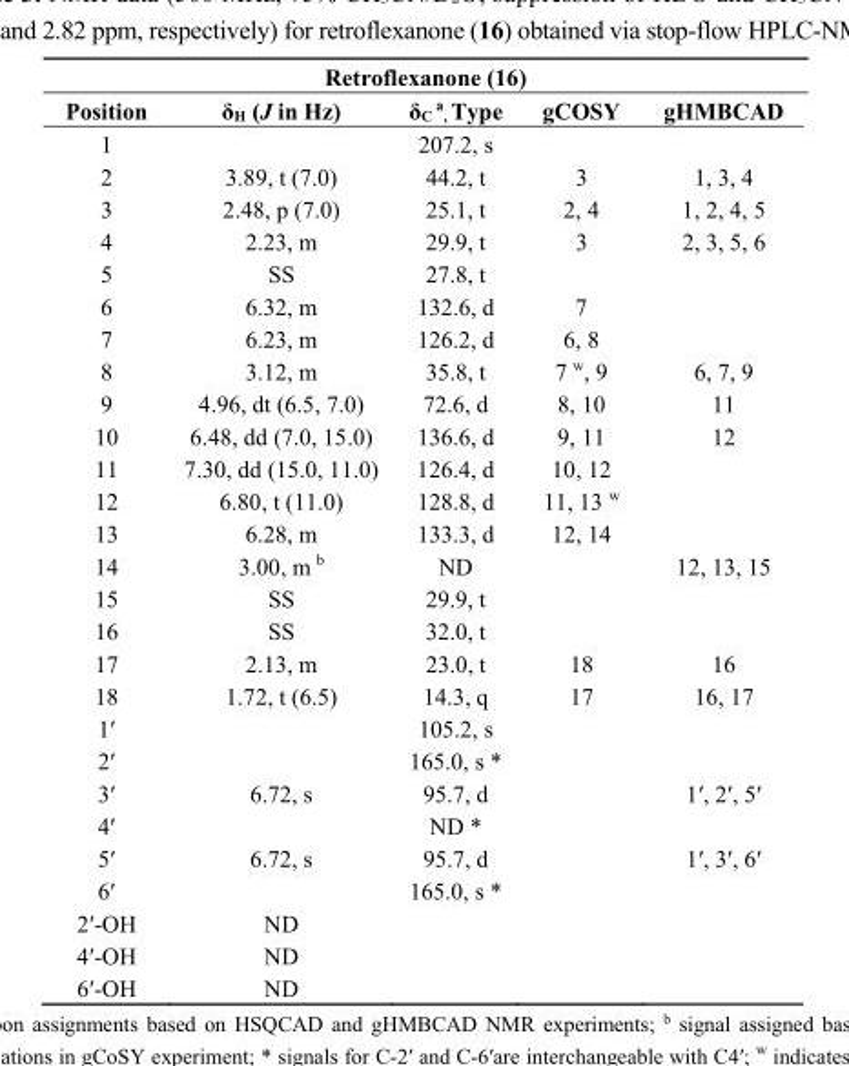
<table><thead><tr><td colspan="5">Retroflexanone (16)</td></tr><tr><td>Position</td><td>δ<sub>H</sub> (J in Hz)</td><td>δ<sub>C</sub> <sup>a</sup><sub>,</sub> Type</td><td>gCOSY</td><td>gHMBCAD</td></tr></thead><tbody><tr><td>1</td><td></td><td>207.2, s</td><td></td><td></td></tr><tr><td>2</td><td>3.89, t (7.0)</td><td>44.2, t</td><td>3</td><td>1, 3, 4</td></tr><tr><td>3</td><td>2.48, p (7.0)</td><td>25.1, t</td><td>2, 4</td><td>1, 2, 4, 5</td></tr><tr><td>4</td><td>2.23, m</td><td>29.9, t</td><td>3</td><td>2, 3, 5, 6</td></tr><tr><td>5</td><td>SS</td><td>27.8, t</td><td></td><td></td></tr><tr><td>6</td><td>6.32, m</td><td>132.6, d</td><td>7</td><td></td></tr><tr><td>7</td><td>6.23, m</td><td>126.2, d</td><td>6, 8</td><td></td></tr><tr><td>8</td><td>3.12, m</td><td>35.8, t</td><td>7 <sup>w</sup>, 9</td><td>6, 7, 9</td></tr><tr><td>9</td><td>4.96, dt (6.5, 7.0)</td><td>72.6, d</td><td>8, 10</td><td>11</td></tr><tr><td>10</td><td>6.48, dd (7.0, 15.0)</td><td>136.6, d</td><td>9, 11</td><td>12</td></tr><tr><td>11</td><td>7.30, dd (15.0, 11.0)</td><td>126.4, d</td><td>10, 12</td><td></td></tr><tr><td>12</td><td>6.80, t (11.0)</td><td>128.8, d</td><td>11, 13 <sup>w</sup></td><td></td></tr><tr><td>13</td><td>6.28, m</td><td>133.3, d</td><td>12, 14</td><td></td></tr><tr><td>14</td><td>3.00, m <sup>b</sup></td><td>ND</td><td></td><td>12, 13, 15</td></tr><tr><td>15</td><td>SS</td><td>29.9, t</td><td></td><td></td></tr><tr><td>16</td><td>SS</td><td>32.0, t</td><td></td><td></td></tr><tr><td>17</td><td>2.13, m</td><td>23.0, t</td><td>18</td><td>16</td></tr><tr><td>18</td><td>1.72, t (6.5)</td><td>14.3, q</td><td>17</td><td>16, 17</td></tr><tr><td>1′</td><td></td><td>105.2, s</td><td></td><td></td></tr><tr><td>2′</td><td></td><td>165.0, s *</td><td></td><td></td></tr><tr><td>3′</td><td>6.72, s</td><td>95.7, d</td><td></td><td>1′, 2′, 5′</td></tr><tr><td>4′</td><td></td><td>ND *</td><td></td><td></td></tr><tr><td>5′</td><td>6.72, s</td><td>95.7, d</td><td></td><td>1′, 3′, 6′</td></tr><tr><td>6′</td><td></td><td>165.0, s *</td><td></td><td></td></tr><tr><td>2′-OH</td><td>ND</td><td></td><td></td><td></td></tr><tr><td>4′-OH</td><td>ND</td><td></td><td></td><td></td></tr><tr><td>6′-OH</td><td>ND</td><td></td><td></td><td></td></tr></tbody></table>